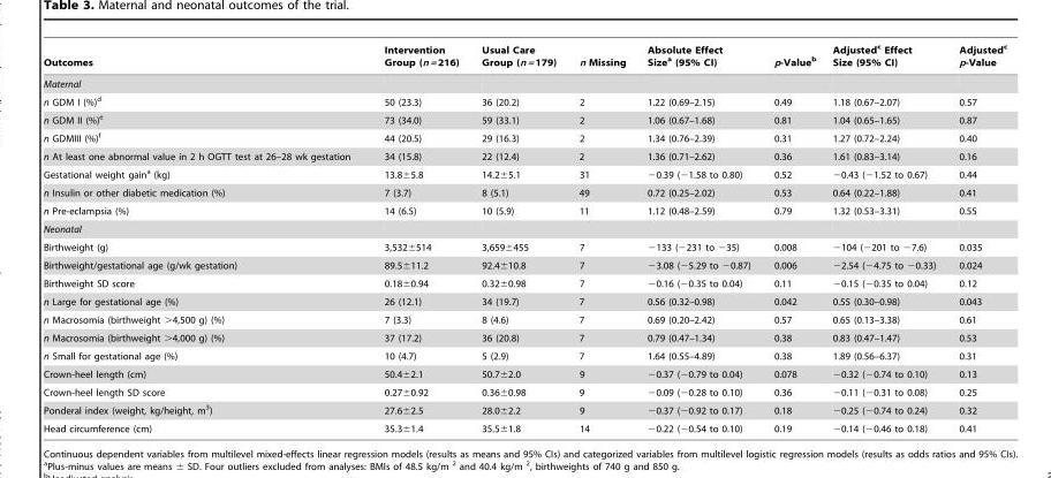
<table><thead><tr><td>Outcomes</td><td>Intervention Group (n = 216)</td><td>Usual Care Group (n = 179)</td><td>n Missing</td><td>Absolute Effect Size<sup>a</sup> (95% CI)</td><td>p-Value<sup>b</sup></td><td>Adjusted<sup>c</sup> Effect Size (95% CI)</td><td>Adjusted<sup>c</sup> p-Value</td></tr></thead><tbody><tr><td colspan="8">Maternal</td></tr><tr><td>n GDM I (%)<sup>d</sup></td><td>50 (23.3)</td><td>36 (20.2)</td><td>2</td><td>1.22 (0.69–2.15)</td><td>0.49</td><td>1.18 (0.67–2.07)</td><td>0.57</td></tr><tr><td>n GDM II (%)<sup>e</sup></td><td>73 (34.0)</td><td>59 (33.1)</td><td>2</td><td>1.06 (0.67–1.68)</td><td>0.81</td><td>1.04 (0.65–1.65)</td><td>0.87</td></tr><tr><td>n GDMIII (%)<sup>f</sup></td><td>44 (20.5)</td><td>29 (16.3)</td><td>2</td><td>1.34 (0.76–2.39)</td><td>0.31</td><td>1.27 (0.72–2.24)</td><td>0.40</td></tr><tr><td>n At least one abnormal value in 2 h OGTT test at 26–28 wk gestation</td><td>34 (15.8)</td><td>22 (12.4)</td><td>2</td><td>1.36 (0.71–2.62)</td><td>0.36</td><td>1.61 (0.83–3.14)</td><td>0.16</td></tr><tr><td>Gestational weight gain<sup>a</sup> (kg)</td><td>13.8±5.8</td><td>14.2±5.1</td><td>31</td><td>−0.39 (−1.58 to 0.80)</td><td>0.52</td><td>−0.43 (−1.52 to 0.67)</td><td>0.44</td></tr><tr><td>n Insulin or other diabetic medication (%)</td><td>7 (3.7)</td><td>8 (5.1)</td><td>49</td><td>0.72 (0.25–2.02)</td><td>0.53</td><td>0.64 (0.22–1.88)</td><td>0.41</td></tr><tr><td>n Pre-eclampsia (%)</td><td>14 (6.5)</td><td>10 (5.9)</td><td>11</td><td>1.12 (0.48–2.59)</td><td>0.79</td><td>1.32 (0.53–3.31)</td><td>0.55</td></tr><tr><td colspan="8">Neonatal</td></tr><tr><td>Birthweight (g)</td><td>3,532±514</td><td>3,659±455</td><td>7</td><td>−133 (−231 to −35)</td><td>0.008</td><td>−104 (−201 to −7.6)</td><td>0.035</td></tr><tr><td>Birthweight/gestational age (g/wk gestation)</td><td>89.5±11.2</td><td>92.4±10.8</td><td>7</td><td>−3.08 (−5.29 to −0.87)</td><td>0.006</td><td>−2.54 (−4.75 to −0.33)</td><td>0.024</td></tr><tr><td>Birthweight SD score</td><td>0.18±0.94</td><td>0.32±0.98</td><td>7</td><td>−0.16 (−0.35 to 0.04)</td><td>0.11</td><td>−0.15 (−0.35 to 0.04)</td><td>0.12</td></tr><tr><td>n Large for gestational age (%)</td><td>26 (12.1)</td><td>34 (19.7)</td><td>7</td><td>0.56 (0.32–0.98)</td><td>0.042</td><td>0.55 (0.30–0.98)</td><td>0.043</td></tr><tr><td>n Macrosomia (birthweight &gt;4,500 g) (%)</td><td>7 (3.3)</td><td>8 (4.6)</td><td>7</td><td>0.69 (0.20–2.42)</td><td>0.57</td><td>0.65 (0.13–3.38)</td><td>0.61</td></tr><tr><td>n Macrosomia (birthweight &gt;4,000 g) (%)</td><td>37 (17.2)</td><td>36 (20.8)</td><td>7</td><td>0.79 (0.47–1.34)</td><td>0.38</td><td>0.83 (0.47–1.47)</td><td>0.53</td></tr><tr><td>n Small for gestational age (%)</td><td>10 (4.7)</td><td>5 (2.9)</td><td>7</td><td>1.64 (0.55–4.89)</td><td>0.38</td><td>1.89 (0.56–6.37)</td><td>0.31</td></tr><tr><td>Crown-heel length (cm)</td><td>50.4±2.1</td><td>50.7±2.0</td><td>9</td><td>−0.37 (−0.79 to 0.04)</td><td>0.078</td><td>−0.32 (−0.74 to 0.10)</td><td>0.13</td></tr><tr><td>Crown-heel length SD score</td><td>0.27±0.92</td><td>0.36±0.98</td><td>9</td><td>−0.09 (−0.28 to 0.10)</td><td>0.36</td><td>−0.11 (−0.31 to 0.08)</td><td>0.25</td></tr><tr><td>Ponderal index (weight, kg/height, m<sup>3</sup>)</td><td>27.6±2.5</td><td>28.0±2.2</td><td>9</td><td>−0.37 (−0.92 to 0.17)</td><td>0.18</td><td>−0.25 (−0.74 to 0.24)</td><td>0.32</td></tr><tr><td>Head circumference (cm)</td><td>35.3±1.4</td><td>35.5±1.8</td><td>14</td><td>−0.22 (−0.54 to 0.10)</td><td>0.19</td><td>−0.14 (−0.46 to 0.18)</td><td>0.41</td></tr></tbody></table>